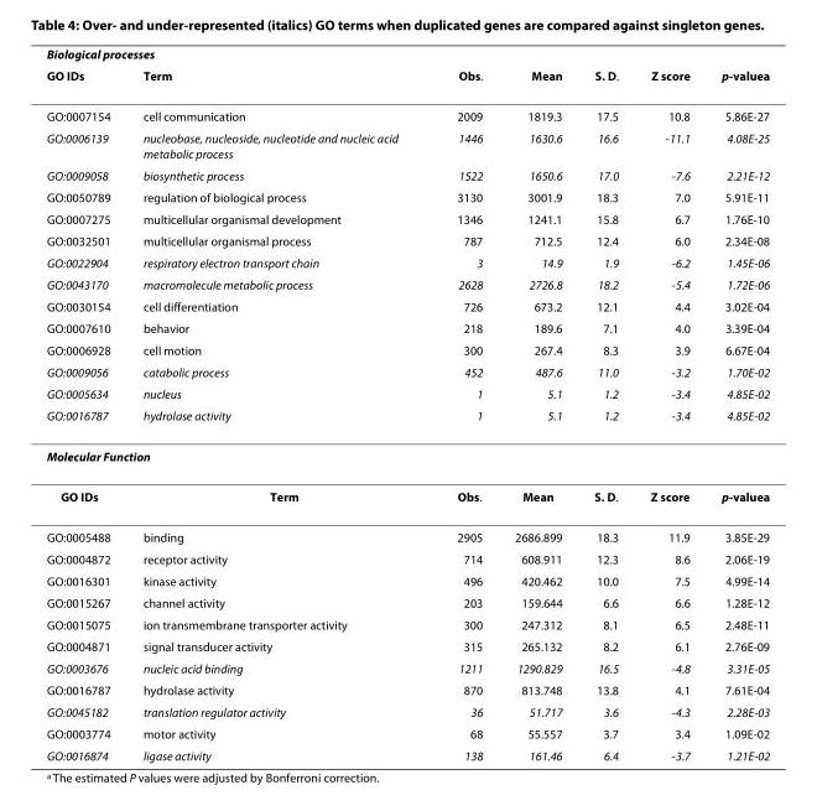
<table><thead><tr><td colspan="7">Biological processes</td></tr><tr><td>GO IDs</td><td>Term</td><td>Obs.</td><td>Mean</td><td>S. D.</td><td>Z score</td><td>p-value<sup>a</sup></td></tr></thead><tbody><tr><td>GO:0007154</td><td>cell communication</td><td>2009</td><td>1819.3</td><td>17.5</td><td>10.8</td><td>5.86E-27</td></tr><tr><td>GO:0006139</td><td>nucleobase, nucleoside, nucleotide and nucleic acid metabolic process</td><td>1446</td><td>1630.6</td><td>16.6</td><td>-11.1</td><td>4.08E-25</td></tr><tr><td>GO:0009058</td><td>biosynthetic process</td><td>1522</td><td>1650.6</td><td>17.0</td><td>-7.6</td><td>2.21E-12</td></tr><tr><td>GO:0050789</td><td>regulation of biological process</td><td>3130</td><td>3001.9</td><td>18.3</td><td>7.0</td><td>5.91E-11</td></tr><tr><td>GO:0007275</td><td>multicellular organismal development</td><td>1346</td><td>1241.1</td><td>15.8</td><td>6.7</td><td>1.76E-10</td></tr><tr><td>GO:0032501</td><td>multicellular organismal process</td><td>787</td><td>712.5</td><td>12.4</td><td>6.0</td><td>2.34E-08</td></tr><tr><td>GO:0022904</td><td>respiratory electron transport chain</td><td>3</td><td>14.9</td><td>1.9</td><td>-6.2</td><td>1.45E-06</td></tr><tr><td>GO:0043170</td><td>macromolecule metabolic process</td><td>2628</td><td>2726.8</td><td>18.2</td><td>-5.4</td><td>1.72E-06</td></tr><tr><td>GO:0030154</td><td>cell differentiation</td><td>726</td><td>673.2</td><td>12.1</td><td>4.4</td><td>3.02E-04</td></tr><tr><td>GO:0007610</td><td>behavior</td><td>218</td><td>189.6</td><td>7.1</td><td>4.0</td><td>3.39E-04</td></tr><tr><td>GO:0006928</td><td>cell motion</td><td>300</td><td>267.4</td><td>8.3</td><td>3.9</td><td>6.67E-04</td></tr><tr><td>GO:0009056</td><td>catabolic process</td><td>452</td><td>487.6</td><td>11.0</td><td>-3.2</td><td>1.70E-02</td></tr><tr><td>GO:0005634</td><td>nucleus</td><td>1</td><td>5.1</td><td>1.2</td><td>-3.4</td><td>4.85E-02</td></tr><tr><td>GO:0016787</td><td>hydrolase activity</td><td>1</td><td>5.1</td><td>1.2</td><td>-3.4</td><td>4.85E-02</td></tr><tr><td colspan="7">Molecular Function</td></tr><tr><td>GO IDs</td><td>Term</td><td>Obs.</td><td>Mean</td><td>S. D.</td><td>Z score</td><td>p-value<sup>a</sup></td></tr><tr><td>GO:0005488</td><td>binding</td><td>2905</td><td>2686.899</td><td>18.3</td><td>11.9</td><td>3.85E-29</td></tr><tr><td>GO:0004872</td><td>receptor activity</td><td>714</td><td>608.911</td><td>12.3</td><td>8.6</td><td>2.06E-19</td></tr><tr><td>GO:0016301</td><td>kinase activity</td><td>496</td><td>420.462</td><td>10.0</td><td>7.5</td><td>4.99E-14</td></tr><tr><td>GO:0015267</td><td>channel activity</td><td>203</td><td>159.644</td><td>6.6</td><td>6.6</td><td>1.28E-12</td></tr><tr><td>GO:0015075</td><td>ion transmembrane transporter activity</td><td>300</td><td>247.312</td><td>8.1</td><td>6.5</td><td>2.48E-11</td></tr><tr><td>GO:0004871</td><td>signal transducer activity</td><td>315</td><td>265.132</td><td>8.2</td><td>6.1</td><td>2.76E-09</td></tr><tr><td>GO:0003676</td><td>nucleic acid binding</td><td>1211</td><td>1290.829</td><td>16.5</td><td>-4.8</td><td>3.31E-05</td></tr><tr><td>GO:0016787</td><td>hydrolase activity</td><td>870</td><td>813.748</td><td>13.8</td><td>4.1</td><td>7.61E-04</td></tr><tr><td>GO:0045182</td><td>translation regulator activity</td><td>36</td><td>51.717</td><td>3.6</td><td>-4.3</td><td>2.28E-03</td></tr><tr><td>GO:0003774</td><td>motor activity</td><td>68</td><td>55.557</td><td>3.7</td><td>3.4</td><td>1.09E-02</td></tr><tr><td>GO:0016874</td><td>ligase activity</td><td>138</td><td>161.46</td><td>6.4</td><td>-3.7</td><td>1.21E-02</td></tr></tbody></table>